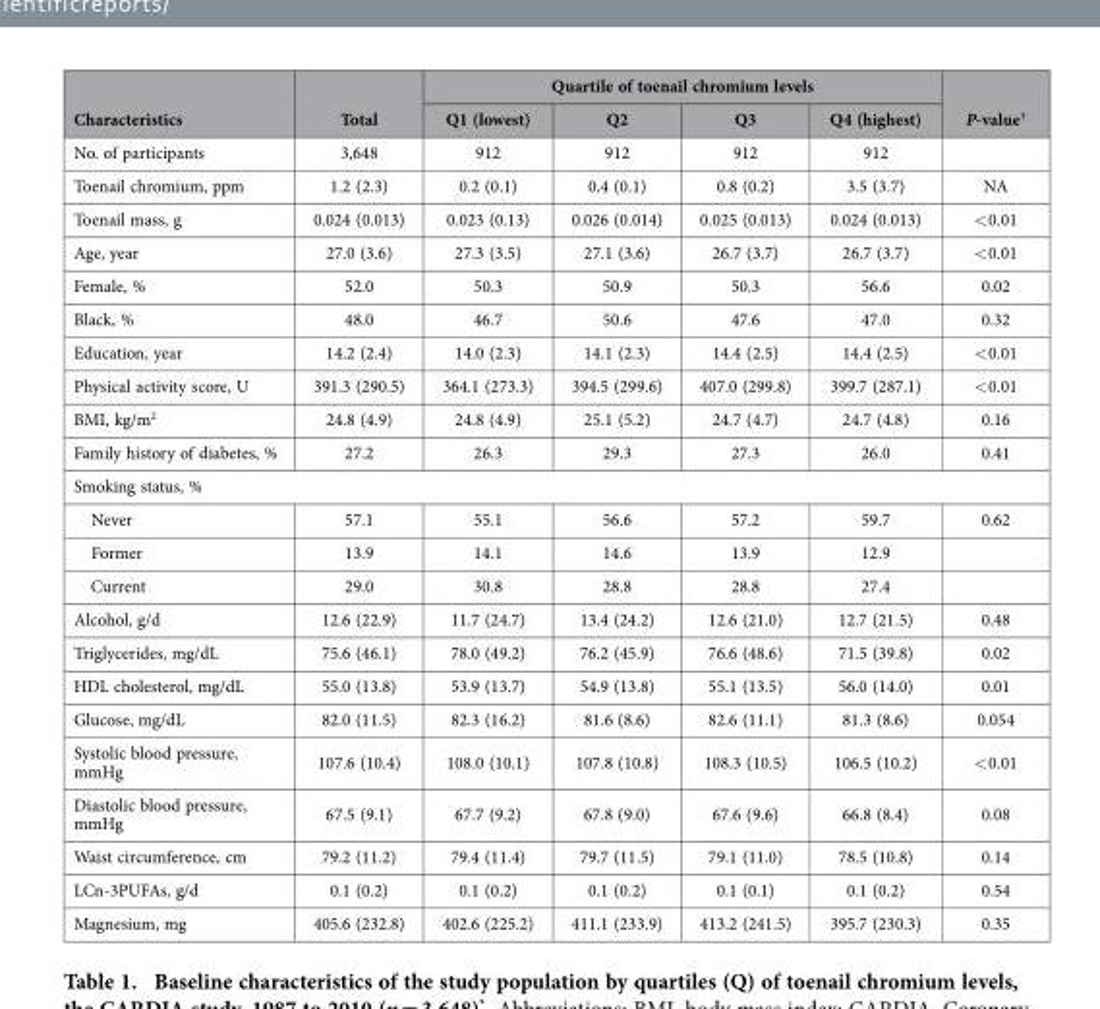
<table><thead><tr><td rowspan="2">Characteristics</td><td rowspan="2">Total</td><td colspan="4">Quartile of toenail chromium levels</td><td rowspan="2">P-value†</td></tr><tr><td>Q1 (lowest)</td><td>Q2</td><td>Q3</td><td>Q4 (highest)</td></tr></thead><tbody><tr><td>No. of participants</td><td>3,648</td><td>912</td><td>912</td><td>912</td><td>912</td><td></td></tr><tr><td>Toenail chromium, ppm</td><td>1.2 (2.3)</td><td>0.2 (0.1)</td><td>0.4 (0.1)</td><td>0.8 (0.2)</td><td>3.5 (3.7)</td><td>NA</td></tr><tr><td>Toenail mass, g</td><td>0.024 (0.013)</td><td>0.023 (0.13)</td><td>0.026 (0.014)</td><td>0.025 (0.013)</td><td>0.024 (0.013)</td><td>&lt; 0.01</td></tr><tr><td>Age, year</td><td>27.0 (3.6)</td><td>27.3 (3.5)</td><td>27.1 (3.6)</td><td>26.7 (3.7)</td><td>26.7 (3.7)</td><td>&lt; 0.01</td></tr><tr><td>Female, %</td><td>52.0</td><td>50.3</td><td>50.9</td><td>50.3</td><td>56.6</td><td>0.02</td></tr><tr><td>Black, %</td><td>48.0</td><td>46.7</td><td>50.6</td><td>47.6</td><td>47.0</td><td>0.32</td></tr><tr><td>Education, year</td><td>14.2 (2.4)</td><td>14.0 (2.3)</td><td>14.1 (2.3)</td><td>14.4 (2.5)</td><td>14.4 (2.5)</td><td>&lt; 0.01</td></tr><tr><td>Physical activity score, U</td><td>391.3 (290.5)</td><td>364.1 (273.3)</td><td>394.5 (299.6)</td><td>407.0 (299.8)</td><td>399.7 (287.1)</td><td>&lt; 0.01</td></tr><tr><td>BMI, kg/m<sup>2</sup></td><td>24.8 (4.9)</td><td>24.8 (4.9)</td><td>25.1 (5.2)</td><td>24.7 (4.7)</td><td>24.7 (4.8)</td><td>0.16</td></tr><tr><td>Family history of diabetes, %</td><td>27.2</td><td>26.3</td><td>29.3</td><td>27.3</td><td>26.0</td><td>0.41</td></tr><tr><td colspan="7">Smoking status, %</td></tr><tr><td>Never</td><td>57.1</td><td>55.1</td><td>56.6</td><td>57.2</td><td>59.7</td><td>0.62</td></tr><tr><td>Former</td><td>13.9</td><td>14.1</td><td>14.6</td><td>13.9</td><td>12.9</td><td></td></tr><tr><td>Current</td><td>29.0</td><td>30.8</td><td>28.8</td><td>28.8</td><td>27.4</td><td></td></tr><tr><td>Alcohol, g/d</td><td>12.6 (22.9)</td><td>11.7 (24.7)</td><td>13.4 (24.2)</td><td>12.6 (21.0)</td><td>12.7 (21.5)</td><td>0.48</td></tr><tr><td>Triglycerides, mg/dL</td><td>75.6 (46.1)</td><td>78.0 (49.2)</td><td>76.2 (45.9)</td><td>76.6 (48.6)</td><td>71.5 (39.8)</td><td>0.02</td></tr><tr><td>HDL cholesterol, mg/dL</td><td>55.0 (13.8)</td><td>53.9 (13.7)</td><td>54.9 (13.8)</td><td>55.1 (13.5)</td><td>56.0 (14.0)</td><td>0.01</td></tr><tr><td>Glucose, mg/dL</td><td>82.0 (11.5)</td><td>82.3 (16.2)</td><td>81.6 (8.6)</td><td>82.6 (11.1)</td><td>81.3 (8.6)</td><td>0.054</td></tr><tr><td>Systolic blood pressure, mmHg</td><td>107.6 (10.4)</td><td>108.0 (10.1)</td><td>107.8 (10.8)</td><td>108.3 (10.5)</td><td>106.5 (10.2)</td><td>&lt; 0.01</td></tr><tr><td>Diastolic blood pressure, mmHg</td><td>67.5 (9.1)</td><td>67.7 (9.2)</td><td>67.8 (9.0)</td><td>67.6 (9.6)</td><td>66.8 (8.4)</td><td>0.08</td></tr><tr><td>Waist circumference, cm</td><td>79.2 (11.2)</td><td>79.4 (11.4)</td><td>79.7 (11.5)</td><td>79.1 (11.0)</td><td>78.5 (10.8)</td><td>0.14</td></tr><tr><td>LCn-3PUFAs, g/d</td><td>0.1 (0.2)</td><td>0.1 (0.2)</td><td>0.1 (0.2)</td><td>0.1 (0.1)</td><td>0.1 (0.2)</td><td>0.54</td></tr><tr><td>Magnesium, mg</td><td>405.6 (232.8)</td><td>402.6 (225.2)</td><td>411.1 (233.9)</td><td>413.2 (241.5)</td><td>395.7 (230.3)</td><td>0.35</td></tr></tbody></table>